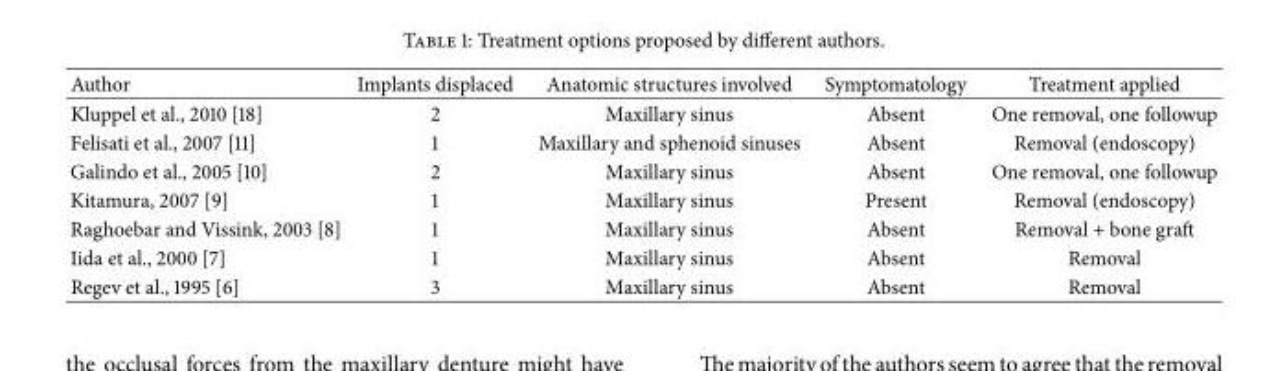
<table><thead><tr><td>Author</td><td>Implants displaced</td><td>Anatomic structures involved</td><td>Symptomatology</td><td>Treatment applied</td></tr></thead><tbody><tr><td>Kluppel et al., 2010 [18]</td><td>2</td><td>Maxillary sinus</td><td>Absent</td><td>One removal, one followup</td></tr><tr><td>Felisati et al., 2007 [11]</td><td>1</td><td>Maxillary and sphenoid sinuses</td><td>Absent</td><td>Removal (endoscopy)</td></tr><tr><td>Galindo et al., 2005 [10]</td><td>2</td><td>Maxillary sinus</td><td>Absent</td><td>One removal, one followup</td></tr><tr><td>Kitamura, 2007 [9]</td><td>1</td><td>Maxillary sinus</td><td>Present</td><td>Removal (endoscopy)</td></tr><tr><td>Raghoebar and Vissink, 2003 [8]</td><td>1</td><td>Maxillary sinus</td><td>Absent</td><td>Removal + bone graft</td></tr><tr><td>Iida et al., 2000 [7]</td><td>1</td><td>Maxillary sinus</td><td>Absent</td><td>Removal</td></tr><tr><td>Regev et al., 1995 [6]</td><td>3</td><td>Maxillary sinus</td><td>Absent</td><td>Removal</td></tr></tbody></table>